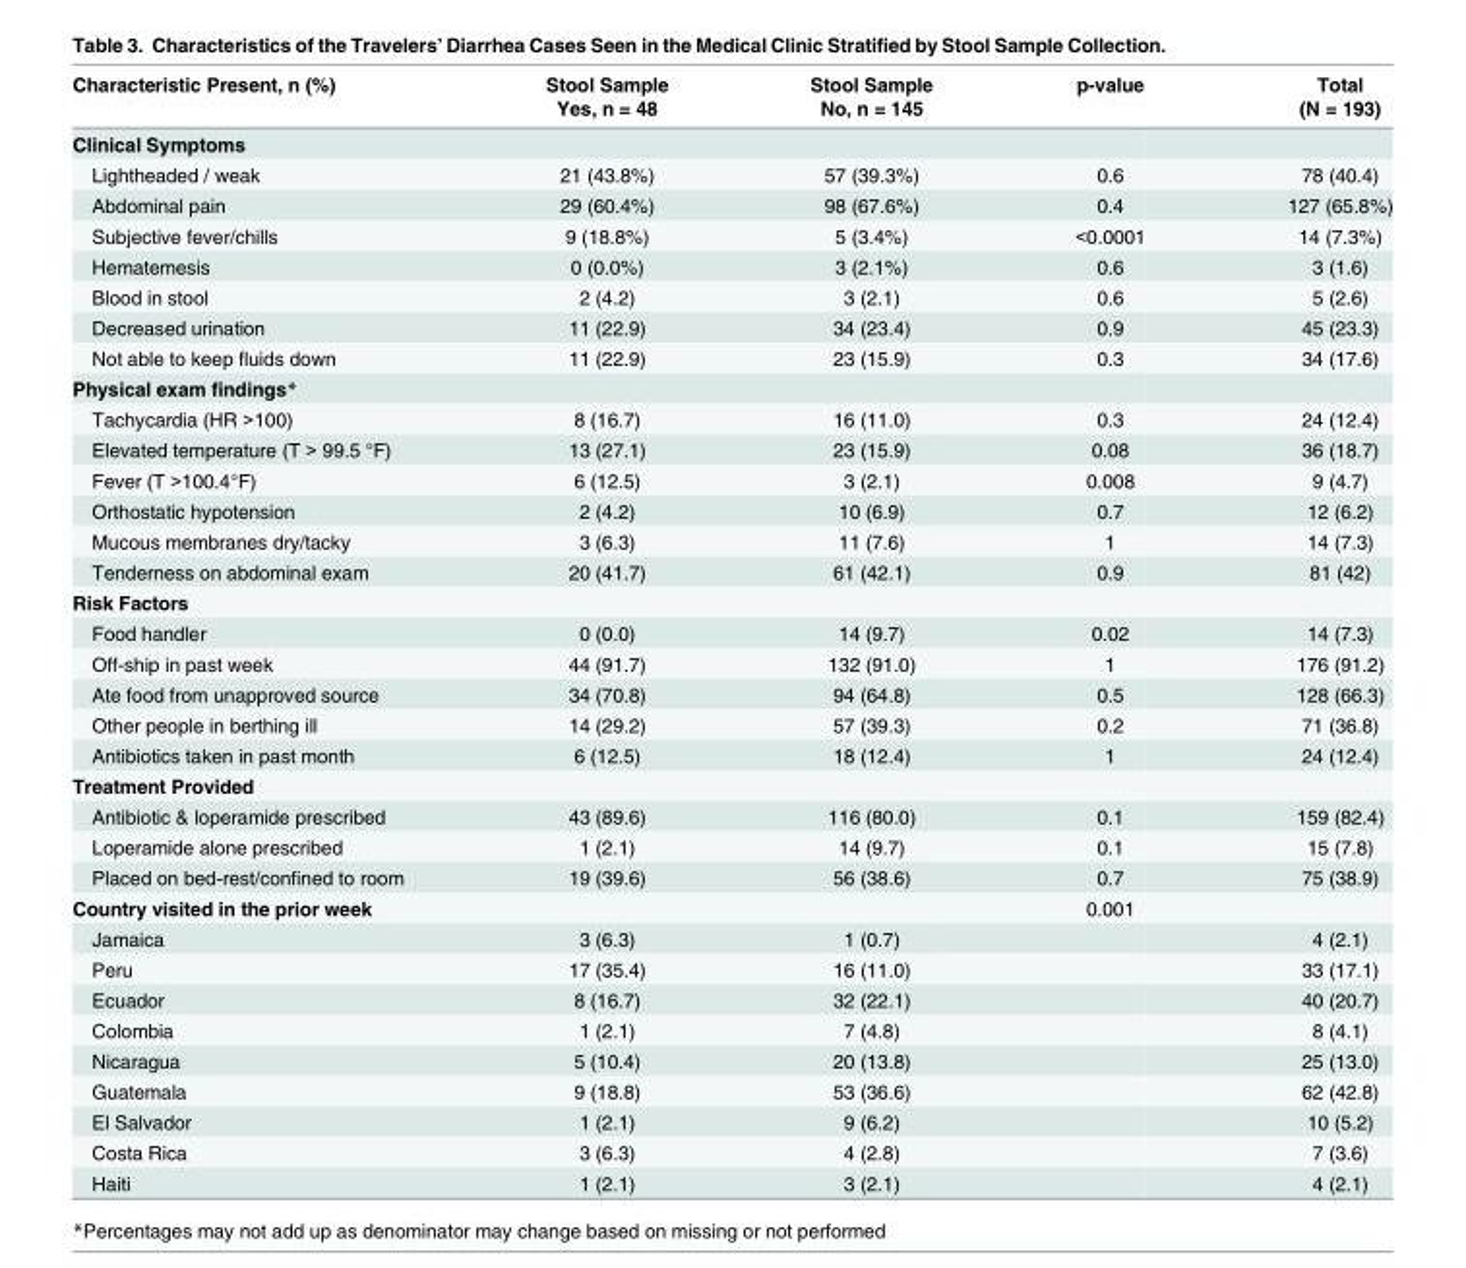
<table><thead><tr><td rowspan="2">Characteristic Present, n (%)</td><td rowspan="2">Stool Sample Yes, n = 48</td><td rowspan="2">Stool Sample No, n = 145</td><td rowspan="2">p-value</td><td rowspan="2">Total (N = 193)</td></tr><tr></tr></thead><tbody><tr><td colspan="5">Clinical Symptoms</td></tr><tr><td>Lightheaded / weak</td><td>21 (43.8%)</td><td>57 (39.3%)</td><td>0.6</td><td>78 (40.4)</td></tr><tr><td>Abdominal pain</td><td>29 (60.4%)</td><td>98 (67.6%)</td><td>0.4</td><td>127 (65.8%)</td></tr><tr><td>Subjective fever/chills</td><td>9 (18.8%)</td><td>5 (3.4%)</td><td>&lt;0.0001</td><td>14 (7.3%)</td></tr><tr><td>Hematemesis</td><td>0 (0.0%)</td><td>3 (2.1%)</td><td>0.6</td><td>3 (1.6)</td></tr><tr><td>Blood in stool</td><td>2 (4.2)</td><td>3 (2.1)</td><td>0.6</td><td>5 (2.6)</td></tr><tr><td>Decreased urination</td><td>11 (22.9)</td><td>34 (23.4)</td><td>0.9</td><td>45 (23.3)</td></tr><tr><td>Not able to keep fluids down</td><td>11 (22.9)</td><td>23 (15.9)</td><td>0.3</td><td>34 (17.6)</td></tr><tr><td colspan="5">Physical exam findings*</td></tr><tr><td>Tachycardia (HR &gt;100)</td><td>8 (16.7)</td><td>16 (11.0)</td><td>0.3</td><td>24 (12.4)</td></tr><tr><td>Elevated temperature (T &gt; 99.5 °F)</td><td>13 (27.1)</td><td>23 (15.9)</td><td>0.08</td><td>36 (18.7)</td></tr><tr><td>Fever (T &gt;100.4°F)</td><td>6 (12.5)</td><td>3 (2.1)</td><td>0.008</td><td>9 (4.7)</td></tr><tr><td>Orthostatic hypotension</td><td>2 (4.2)</td><td>10 (6.9)</td><td>0.7</td><td>12 (6.2)</td></tr><tr><td>Mucous membranes dry/tacky</td><td>3 (6.3)</td><td>11 (7.6)</td><td>1</td><td>14 (7.3)</td></tr><tr><td>Tenderness on abdominal exam</td><td>20 (41.7)</td><td>61 (42.1)</td><td>0.9</td><td>81 (42)</td></tr><tr><td colspan="5">Risk Factors</td></tr><tr><td>Food handler</td><td>0 (0.0)</td><td>14 (9.7)</td><td>0.02</td><td>14 (7.3)</td></tr><tr><td>Off-ship in past week</td><td>44 (91.7)</td><td>132 (91.0)</td><td>1</td><td>176 (91.2)</td></tr><tr><td>Ate food from unapproved source</td><td>34 (70.8)</td><td>94 (64.8)</td><td>0.5</td><td>128 (66.3)</td></tr><tr><td>Other people in berthing ill</td><td>14 (29.2)</td><td>57 (39.3)</td><td>0.2</td><td>71 (36.8)</td></tr><tr><td>Antibiotics taken in past month</td><td>6 (12.5)</td><td>18 (12.4)</td><td>1</td><td>24 (12.4)</td></tr><tr><td colspan="5">Treatment Provided</td></tr><tr><td>Antibiotic &amp; loperamide prescribed</td><td>43 (89.6)</td><td>116 (80.0)</td><td>0.1</td><td>159 (82.4)</td></tr><tr><td>Loperamide alone prescribed</td><td>1 (2.1)</td><td>14 (9.7)</td><td>0.1</td><td>15 (7.8)</td></tr><tr><td>Placed on bed-rest/confined to room</td><td>19 (39.6)</td><td>56 (38.6)</td><td>0.7</td><td>75 (38.9)</td></tr><tr><td>Country visited in the prior week</td><td></td><td></td><td>0.001</td><td></td></tr><tr><td>Jamaica</td><td>3 (6.3)</td><td>1 (0.7)</td><td></td><td>4 (2.1)</td></tr><tr><td>Peru</td><td>17 (35.4)</td><td>16 (11.0)</td><td></td><td>33 (17.1)</td></tr><tr><td>Ecuador</td><td>8 (16.7)</td><td>32 (22.1)</td><td></td><td>40 (20.7)</td></tr><tr><td>Colombia</td><td>1 (2.1)</td><td>7 (4.8)</td><td></td><td>8 (4.1)</td></tr><tr><td>Nicaragua</td><td>5 (10.4)</td><td>20 (13.8)</td><td></td><td>25 (13.0)</td></tr><tr><td>Guatemala</td><td>9 (18.8)</td><td>53 (36.6)</td><td></td><td>62 (42.8)</td></tr><tr><td>El Salvador</td><td>1 (2.1)</td><td>9 (6.2)</td><td></td><td>10 (5.2)</td></tr><tr><td>Costa Rica</td><td>3 (6.3)</td><td>4 (2.8)</td><td></td><td>7 (3.6)</td></tr><tr><td>Haiti</td><td>1 (2.1)</td><td>3 (2.1)</td><td></td><td>4 (2.1)</td></tr></tbody></table>